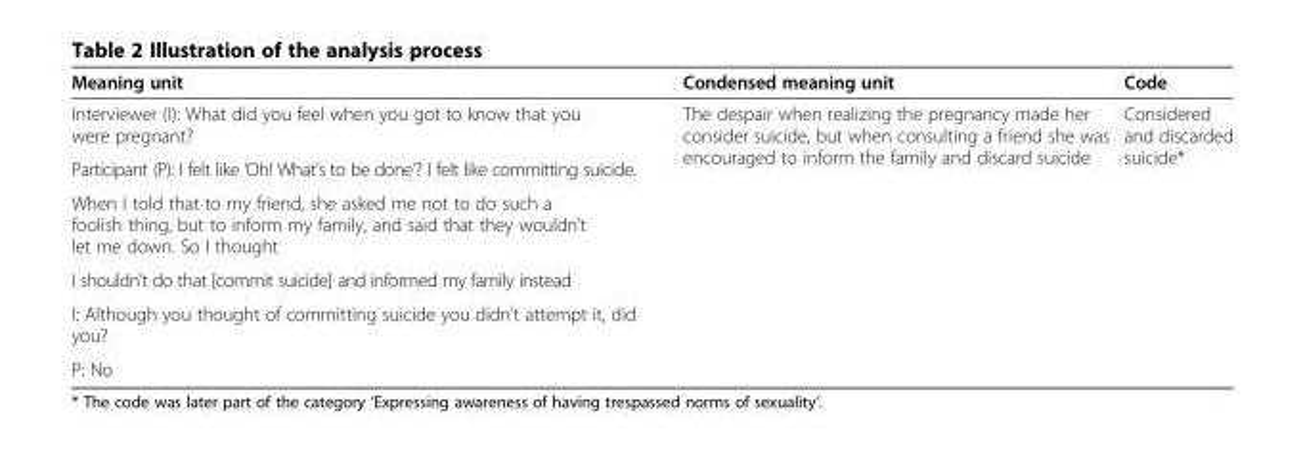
<table><thead><tr><td>Meaning unit</td><td>Condensed meaning unit</td><td>Code</td></tr></thead><tbody><tr><td>Interviewer (I): What did you feel when you got to know that you were pregnant?</td><td rowspan="2">The despair when realizing the pregnancy made her consider suicide, but when consulting a friend she was encouraged to inform the family and discard suicide</td><td rowspan="2">Considered and discarded suicide*</td></tr><tr><td>Participant (P): I felt like ‘Oh! What’s to be done’? I felt like committing suicide.</td></tr><tr><td colspan="3">When I told that to my friend, she asked me not to do such a foolish thing, but to inform my family, and said that they wouldn’t let me down. So I thought</td></tr><tr><td colspan="3">I shouldn’t do that [commit suicide] and informed my family instead</td></tr><tr><td colspan="3">I: Although you thought of committing suicide you didn’t attempt it, did you?</td></tr><tr><td>P: No</td><td></td><td></td></tr></tbody></table>